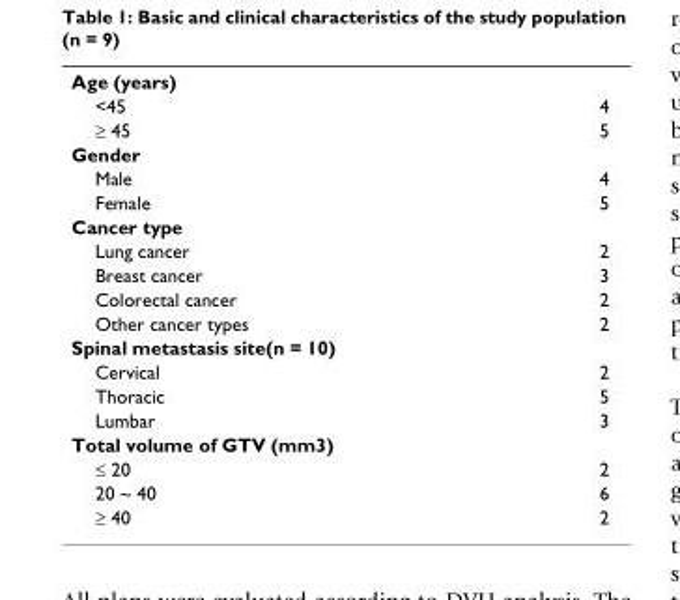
<table><tbody><tr><td colspan="2">Age (years)</td></tr><tr><td>&lt;45</td><td>4</td></tr><tr><td>≥ 45</td><td>5</td></tr><tr><td colspan="2">Gender</td></tr><tr><td>Male</td><td>4</td></tr><tr><td>Female</td><td>5</td></tr><tr><td colspan="2">Cancer type</td></tr><tr><td>Lung cancer</td><td>2</td></tr><tr><td>Breast cancer</td><td>3</td></tr><tr><td>Colorectal cancer</td><td>2</td></tr><tr><td>Other cancer types</td><td>2</td></tr><tr><td colspan="2">Spinal metastasis site(n = 10)</td></tr><tr><td>Cervical</td><td>2</td></tr><tr><td>Thoracic</td><td>5</td></tr><tr><td>Lumbar</td><td>3</td></tr><tr><td colspan="2">Total volume of GTV (mm3)</td></tr><tr><td>≤ 20</td><td>2</td></tr><tr><td>20 ~ 40</td><td>6</td></tr><tr><td>≥ 40</td><td>2</td></tr></tbody></table>